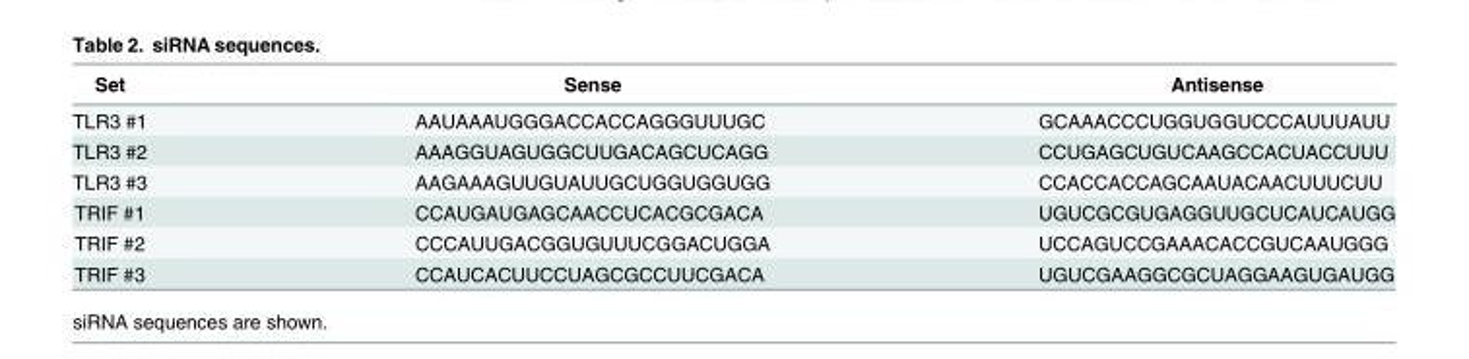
<table><thead><tr><td>Set</td><td>Sense</td><td>Antisense</td></tr></thead><tbody><tr><td>TLR3 #1</td><td>AAUAAAUGGGACCACCAGGGUUUGC</td><td>GCAAACCCUGGUGGUCCCAUUUAUU</td></tr><tr><td>TLR3 #2</td><td>AAAGGUAGUGGCUUGACAGCUCAGG</td><td>CCUGAGCUGUCAAGCCACUACCUUU</td></tr><tr><td>TLR3 #3</td><td>AAGAAAGUUGUAUUGCUGGUGGUGG</td><td>CCACCACCAGCAAUACAACUUUCUU</td></tr><tr><td>TRIF #1</td><td>CCAUGAUGAGCAACCUCACGCGACA</td><td>UGUCGCGUGAGGUUGCUCAUCAUGG</td></tr><tr><td>TRIF #2</td><td>CCCAUUGACGGUGUUUCGGACUGGA</td><td>UCCAGUCCGAAACACCGUCAAUGGG</td></tr><tr><td>TRIF #3</td><td>CCAUCACUUCCUAGCGCCUUCGACA</td><td>UGUCGAAGGCGCUAGGAAGUGAUGG</td></tr></tbody></table>